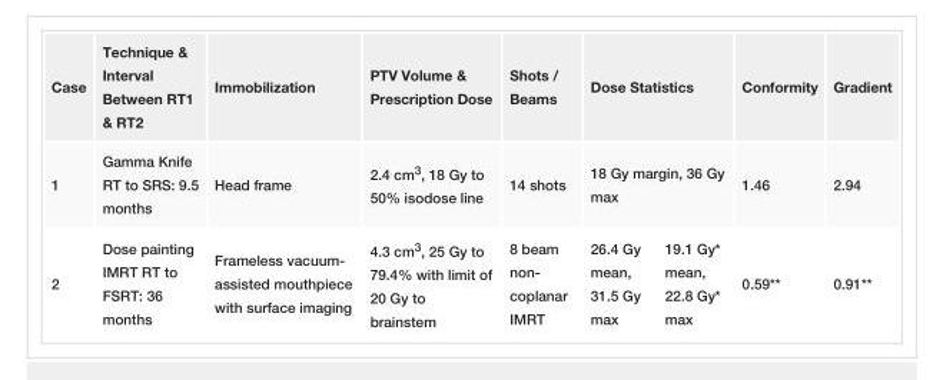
<table><tbody><tr><td>Case</td><td>Technique &amp; Interval Between RT1 &amp; RT2</td><td>Immobilization</td><td>PTV Volume &amp; Prescription Dose</td><td>Shots / Beams</td><td colspan="2">Dose Statistics</td><td>Conformity</td><td>Gradient</td></tr><tr><td>1</td><td>Gamma Knife RT to SRS: 9.5 months</td><td>Head frame</td><td>2.4 cm<sup>3</sup>, 18 Gy to 50% isodose line</td><td>14 shots</td><td colspan="2">18 Gy margin, 36 Gy max</td><td>1.46</td><td>2.94</td></tr><tr><td>2</td><td>Dose painting IMRT RT to FSRT: 36 months</td><td>Frameless vacuum- assisted mouthpiece with surface imaging</td><td>4.3 cm<sup>3</sup>, 25 Gy to 79.4% with limit of 20 Gy to brainstem</td><td>8 beam non- coplanar IMRT</td><td>26.4 Gy mean, 31.5 Gy max</td><td>19.1 Gy* mean, 22.8 Gy* max</td><td>0.59**</td><td>0.91**</td></tr></tbody></table>